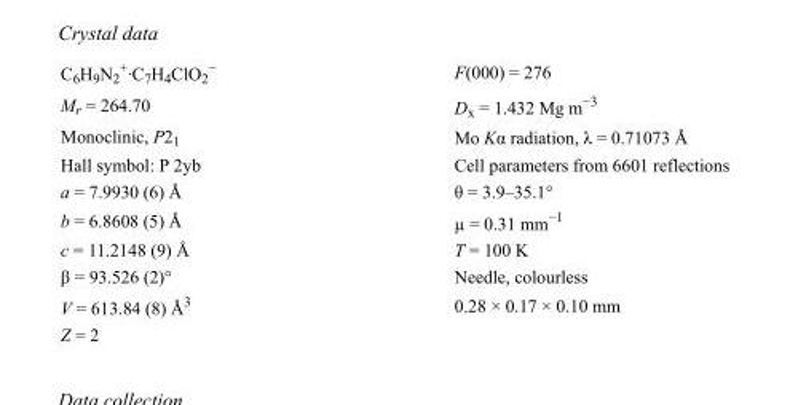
<table><tbody><tr><td>C<sub>6</sub>H<sub>9</sub>N<sub>2</sub> <sup>+</sup>·C<sub>7</sub>H<sub>4</sub>ClO<sub>2</sub> <sup>−</sup></td><td>F(000) = 276</td></tr><tr><td>M<sub>r</sub> = 264.70</td><td>D<sub>x</sub> = 1.432 Mg m<sup>−3</sup></td></tr><tr><td>Monoclinic, P2<sub>1</sub></td><td>Mo Kα radiation, λ = 0.71073 Å</td></tr><tr><td>Hall symbol: P 2yb</td><td>Cell parameters from 6601 reflections</td></tr><tr><td>a = 7.9930 (6) Å</td><td>θ = 3.9–35.1°</td></tr><tr><td>b = 6.8608 (5) Å</td><td>µ = 0.31 mm<sup>−1</sup></td></tr><tr><td>c = 11.2148 (9) Å</td><td>T = 100 K</td></tr><tr><td>β = 93.526 (2)°</td><td>Needle, colourless</td></tr><tr><td>V = 613.84 (8) Å<sup>3</sup></td><td>0.28 × 0.17 × 0.10 mm</td></tr><tr><td>Z = 2</td><td></td></tr></tbody></table>